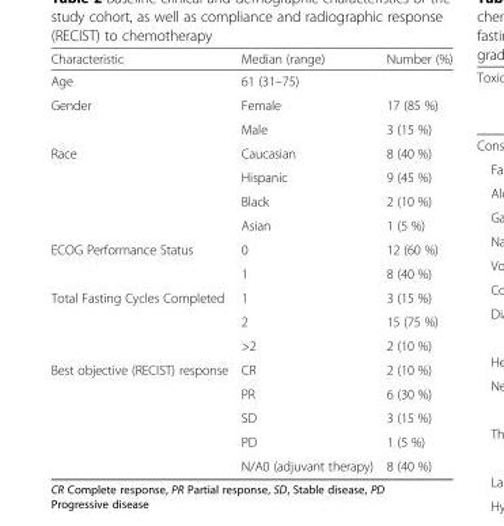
<table><thead><tr><td>Characteristic</td><td>Median (range)</td><td>Number (%)</td></tr></thead><tbody><tr><td>Age</td><td>61 (31–75)</td><td></td></tr><tr><td rowspan="2">Gender</td><td>Female</td><td>17 (85 %)</td></tr><tr><td>Male</td><td>3 (15 %)</td></tr><tr><td rowspan="4">Race</td><td>Caucasian</td><td>8 (40 %)</td></tr><tr><td>Hispanic</td><td>9 (45 %)</td></tr><tr><td>Black</td><td>2 (10 %)</td></tr><tr><td>Asian</td><td>1 (5 %)</td></tr><tr><td rowspan="2">ECOG Performance Status</td><td>0</td><td>12 (60 %)</td></tr><tr><td>1</td><td>8 (40 %)</td></tr><tr><td rowspan="3">Total Fasting Cycles Completed</td><td>1</td><td>3 (15 %)</td></tr><tr><td>2</td><td>15 (75 %)</td></tr><tr><td>&gt;2</td><td>2 (10 %)</td></tr><tr><td rowspan="5">Best objective (RECIST) response</td><td>CR</td><td>2 (10 %)</td></tr><tr><td>PR</td><td>6 (30 %)</td></tr><tr><td>SD</td><td>3 (15 %)</td></tr><tr><td>PD</td><td>1 (5 %)</td></tr><tr><td>N/A0 (adjuvant therapy)</td><td>8 (40 %)</td></tr></tbody></table>